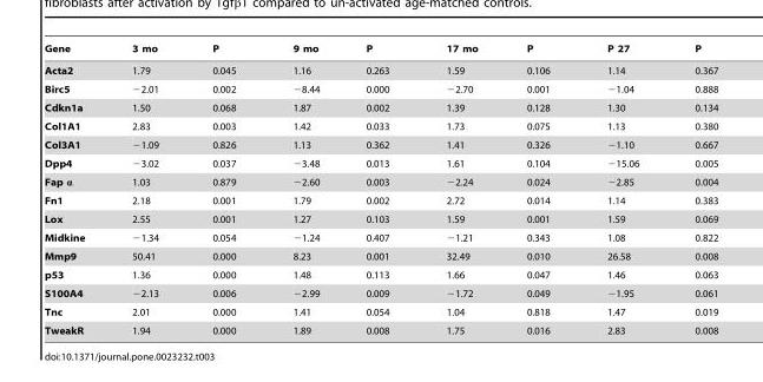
<table><thead><tr><td>Gene</td><td>3 mo</td><td>P</td><td>9 mo</td><td>P</td><td>17 mo</td><td>P</td><td>P 27</td><td>P</td></tr></thead><tbody><tr><td>Acta2</td><td>1.79</td><td>0.045</td><td>1.16</td><td>0.263</td><td>1.59</td><td>0.106</td><td>1.14</td><td>0.367</td></tr><tr><td>Birc5</td><td>−2.01</td><td>0.002</td><td>−8.44</td><td>0.000</td><td>−2.70</td><td>0.001</td><td>−1.04</td><td>0.888</td></tr><tr><td>Cdkn1a</td><td>1.50</td><td>0.068</td><td>1.87</td><td>0.002</td><td>1.39</td><td>0.128</td><td>1.30</td><td>0.134</td></tr><tr><td>Col1A1</td><td>2.83</td><td>0.003</td><td>1.42</td><td>0.033</td><td>1.73</td><td>0.075</td><td>1.13</td><td>0.380</td></tr><tr><td>Col3A1</td><td>−1.09</td><td>0.826</td><td>1.13</td><td>0.362</td><td>1.41</td><td>0.326</td><td>−1.10</td><td>0.667</td></tr><tr><td>Dpp4</td><td>−3.02</td><td>0.037</td><td>−3.48</td><td>0.013</td><td>1.61</td><td>0.104</td><td>−15.06</td><td>0.005</td></tr><tr><td>Fap α</td><td>1.03</td><td>0.879</td><td>−2.60</td><td>0.003</td><td>−2.24</td><td>0.024</td><td>−2.85</td><td>0.004</td></tr><tr><td>Fn1</td><td>2.18</td><td>0.001</td><td>1.79</td><td>0.002</td><td>2.72</td><td>0.014</td><td>1.14</td><td>0.383</td></tr><tr><td>Lox</td><td>2.55</td><td>0.001</td><td>1.27</td><td>0.103</td><td>1.59</td><td>0.001</td><td>1.59</td><td>0.069</td></tr><tr><td>Midkine</td><td>−1.34</td><td>0.054</td><td>−1.24</td><td>0.407</td><td>−1.21</td><td>0.343</td><td>1.08</td><td>0.822</td></tr><tr><td>Mmp9</td><td>50.41</td><td>0.000</td><td>8.23</td><td>0.001</td><td>32.49</td><td>0.010</td><td>26.58</td><td>0.008</td></tr><tr><td>p53</td><td>1.36</td><td>0.000</td><td>1.48</td><td>0.113</td><td>1.66</td><td>0.047</td><td>1.46</td><td>0.063</td></tr><tr><td>S100A4</td><td>−2.13</td><td>0.006</td><td>−2.99</td><td>0.009</td><td>−1.72</td><td>0.049</td><td>−1.95</td><td>0.061</td></tr><tr><td>Tnc</td><td>2.01</td><td>0.000</td><td>1.41</td><td>0.054</td><td>1.04</td><td>0.818</td><td>1.47</td><td>0.019</td></tr><tr><td>TweakR</td><td>1.94</td><td>0.000</td><td>1.89</td><td>0.008</td><td>1.75</td><td>0.016</td><td>2.83</td><td>0.008</td></tr></tbody></table>